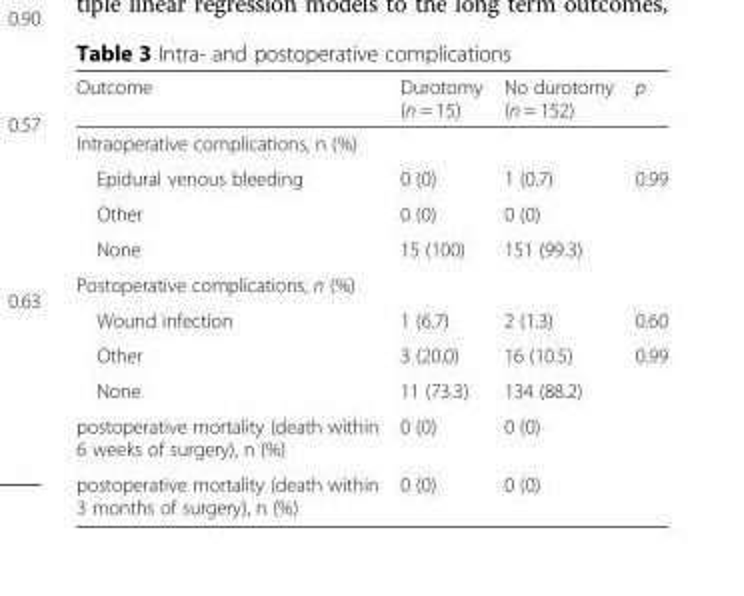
<table><thead><tr><td>Outcome</td><td>Durotomy (n = 15)</td><td>No durotomy (n = 152)</td><td>p</td></tr></thead><tbody><tr><td colspan="4">Intraoperative complications, n (%)</td></tr><tr><td>Epidural venous bleeding</td><td>0 (0)</td><td>1 (0.7)</td><td>0.99</td></tr><tr><td>Other</td><td>0 (0)</td><td>0 (0)</td><td></td></tr><tr><td>None</td><td>15 (100)</td><td>151 (99.3)</td><td></td></tr><tr><td colspan="4">Postoperative complications, n (%)</td></tr><tr><td>Wound infection</td><td>1 (6.7)</td><td>2 (1.3)</td><td>0.60</td></tr><tr><td>Other</td><td>3 (20.0)</td><td>16 (10.5)</td><td>0.99</td></tr><tr><td>None</td><td>11 (73.3)</td><td>134 (88.2)</td><td></td></tr><tr><td>postoperative mortality (death within 6 weeks of surgery), n (%)</td><td>0 (0)</td><td>0 (0)</td><td></td></tr><tr><td>postoperative mortality (death within 3 months of surgery), n (%)</td><td>0 (0)</td><td>0 (0)</td><td></td></tr></tbody></table>